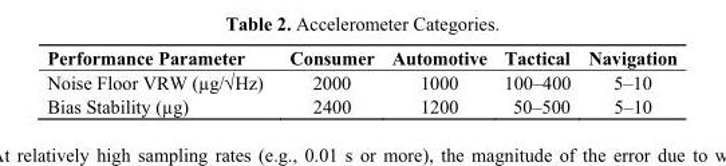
<table><thead><tr><td>Performance Parameter</td><td>Consumer</td><td>Automotive</td><td>Tactical</td><td>Navigation</td></tr></thead><tbody><tr><td>Noise Floor VRW (µg/√Hz)</td><td>2000</td><td>1000</td><td>100–400</td><td>5–10</td></tr><tr><td>Bias Stability (µg)</td><td>2400</td><td>1200</td><td>50–500</td><td>5–10</td></tr></tbody></table>